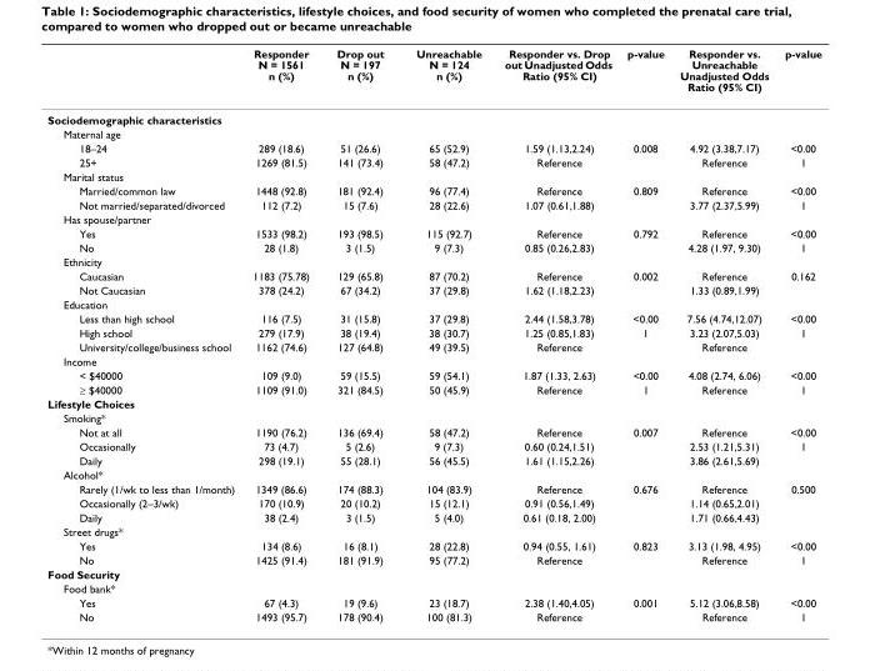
<table><thead><tr><td></td><td>Responder N = 1561 n (%)</td><td>Drop out N = 197 n (%)</td><td>Unreachable N = 124 n (%)</td><td>Responder vs. Drop out Unadjusted Odds Ratio (95% CI)</td><td>p-value</td><td>Responder vs. Unreachable Unadjusted Odds Ratio (95% CI)</td><td>p-value</td></tr></thead><tbody><tr><td colspan="8">Sociodemographic characteristics</td></tr><tr><td colspan="8">Maternal age</td></tr><tr><td>18–24</td><td>289 (18.6)</td><td>51 (26.6)</td><td>65 (52.9)</td><td>1.59 (1.13,2.24)</td><td>0.008</td><td>4.92 (3.38,7.17)</td><td>&lt;0.00</td></tr><tr><td>25+</td><td>1269 (81.5)</td><td>141 (73.4)</td><td>58 (47.2)</td><td>Reference</td><td></td><td>Reference</td><td>1</td></tr><tr><td colspan="8">Marital status</td></tr><tr><td>Married/common law</td><td>1448 (92.8)</td><td>181 (92.4)</td><td>96 (77.4)</td><td>Reference</td><td>0.809</td><td>Reference</td><td>&lt;0.00</td></tr><tr><td>Not married/separated/divorced</td><td>112 (7.2)</td><td>15 (7.6)</td><td>28 (22.6)</td><td>1.07 (0.61,1.88)</td><td></td><td>3.77 (2.37,5.99)</td><td>1</td></tr><tr><td colspan="8">Has spouse/partner</td></tr><tr><td>Yes</td><td>1533 (98.2)</td><td>193 (98.5)</td><td>115 (92.7)</td><td>Reference</td><td>0.792</td><td>Reference</td><td>&lt;0.00</td></tr><tr><td>No</td><td>28 (1.8)</td><td>3 (1.5)</td><td>9 (7.3)</td><td>0.85 (0.26,2.83)</td><td></td><td>4.28 (1.97, 9.30)</td><td>1</td></tr><tr><td colspan="8">Ethnicity</td></tr><tr><td>Caucasian</td><td>1183 (75.78)</td><td>129 (65.8)</td><td>87 (70.2)</td><td>Reference</td><td>0.002</td><td>Reference</td><td>0.162</td></tr><tr><td>Not Caucasian</td><td>378 (24.2)</td><td>67 (34.2)</td><td>37 (29.8)</td><td>1.62 (1.18,2.23)</td><td></td><td>1.33 (0.89,1.99)</td><td></td></tr><tr><td colspan="8">Education</td></tr><tr><td>Less than high school</td><td>116 (7.5)</td><td>31 (15.8)</td><td>37 (29.8)</td><td>2.44 (1.58,3.78)</td><td>&lt;0.00</td><td>7.56 (4.74,12.07)</td><td>&lt;0.00</td></tr><tr><td>High school</td><td>279 (17.9)</td><td>38 (19.4)</td><td>38 (30.7)</td><td>1.25 (0.85,1.83)</td><td>1</td><td>3.23 (2.07,5.03)</td><td>1</td></tr><tr><td>University/college/business school</td><td>1162 (74.6)</td><td>127 (64.8)</td><td>49 (39.5)</td><td>Reference</td><td></td><td>Reference</td><td></td></tr><tr><td colspan="8">Income</td></tr><tr><td>&lt; $40000</td><td>109 (9.0)</td><td>59 (15.5)</td><td>59 (54.1)</td><td>1.87 (1.33, 2.63)</td><td>&lt;0.00</td><td>4.08 (2.74, 6.06)</td><td>&lt;0.00</td></tr><tr><td>≥ $40000</td><td>1109 (91.0)</td><td>321 (84.5)</td><td>50 (45.9)</td><td>Reference</td><td>1</td><td>Reference</td><td>1</td></tr><tr><td colspan="8">Lifestyle Choices</td></tr><tr><td colspan="8">Smoking*</td></tr><tr><td>Not at all</td><td>1190 (76.2)</td><td>136 (69.4)</td><td>58 (47.2)</td><td>Reference</td><td>0.007</td><td>Reference</td><td>&lt;0.00</td></tr><tr><td>Occasionally</td><td>73 (4.7)</td><td>5 (2.6)</td><td>9 (7.3)</td><td>0.60 (0.24,1.51)</td><td></td><td>2.53 (1.21,5.31)</td><td>1</td></tr><tr><td>Daily</td><td>298 (19.1)</td><td>55 (28.1)</td><td>56 (45.5)</td><td>1.61 (1.15,2.26)</td><td></td><td>3.86 (2.61,5.69)</td><td></td></tr><tr><td colspan="8">Alcohol*</td></tr><tr><td>Rarely (1/wk to less than 1/month)</td><td>1349 (86.6)</td><td>174 (88.3)</td><td>104 (83.9)</td><td>Reference</td><td>0.676</td><td>Reference</td><td>0.500</td></tr><tr><td>Occasionally (2–3/wk)</td><td>170 (10.9)</td><td>20 (10.2)</td><td>15 (12.1)</td><td>0.91 (0.56,1.49)</td><td></td><td>1.14 (0.65,2.01)</td><td></td></tr><tr><td>Daily</td><td>38 (2.4)</td><td>3 (1.5)</td><td>5 (4.0)</td><td>0.61 (0.18, 2.00)</td><td></td><td>1.71 (0.66,4.43)</td><td></td></tr><tr><td colspan="8">Street drugs*</td></tr><tr><td>Yes</td><td>134 (8.6)</td><td>16 (8.1)</td><td>28 (22.8)</td><td>0.94 (0.55, 1.61)</td><td>0.823</td><td>3.13 (1.98, 4.95)</td><td>&lt;0.00</td></tr><tr><td>No</td><td>1425 (91.4)</td><td>181 (91.9)</td><td>95 (77.2)</td><td>Reference</td><td></td><td>Reference</td><td>1</td></tr><tr><td colspan="8">Food Security</td></tr><tr><td colspan="8">Food bank*</td></tr><tr><td>Yes</td><td>67 (4.3)</td><td>19 (9.6)</td><td>23 (18.7)</td><td>2.38 (1.40,4.05)</td><td>0.001</td><td>5.12 (3.06,8.58)</td><td>&lt;0.00</td></tr><tr><td>No</td><td>1493 (95.7)</td><td>178 (90.4)</td><td>100 (81.3)</td><td>Reference</td><td></td><td>Reference</td><td>1</td></tr></tbody></table>